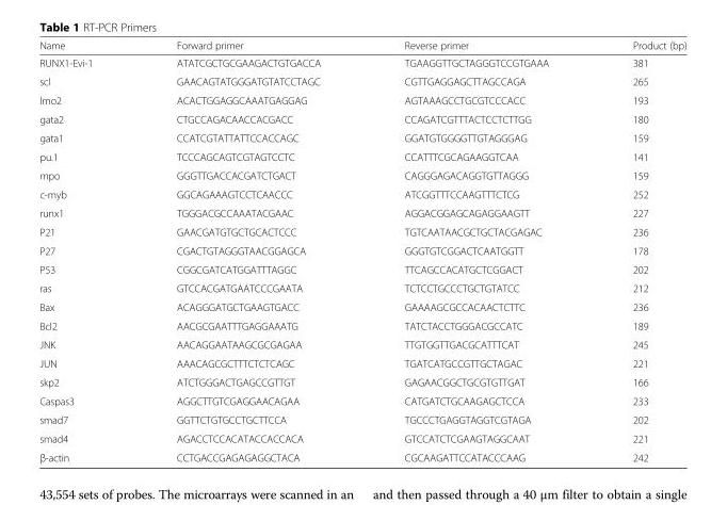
<table><thead><tr><td>Name</td><td>Forward primer</td><td>Reverse primer</td><td>Product (bp)</td></tr></thead><tbody><tr><td>RUNX1-Evi-1</td><td>ATATCGCTGCGAAGACTGTGACCA</td><td>TGAAGGTTGCTAGGGTCCGTGAAA</td><td>381</td></tr><tr><td>scl</td><td>GAACAGTATGGGATGTATCCTAGC</td><td>CGTTGAGGAGCTTAGCCAGA</td><td>265</td></tr><tr><td>lmo2</td><td>ACACTGGAGGCAAATGAGGAG</td><td>AGTAAAGCCTGCGTCCCACC</td><td>193</td></tr><tr><td>gata2</td><td>CTGCCAGACAACCACGACC</td><td>CCAGATCGTTTACTCCTCTTGG</td><td>180</td></tr><tr><td>gata1</td><td>CCATCGTATTATTCCACCAGC</td><td>GGATGTGGGGTTGTAGGGAG</td><td>159</td></tr><tr><td>pu.1</td><td>TCCCAGCAGTCGTAGTCCTC</td><td>CCATTTCGCAGAAGGTCAA</td><td>141</td></tr><tr><td>mpo</td><td>GGGTTGACCACGATCTGACT</td><td>CAGGGAGACAGGTGTTAGGG</td><td>159</td></tr><tr><td>c-myb</td><td>GGCAGAAAGTCCTCAACCC</td><td>ATCGGTTTCCAAGTTTCTCG</td><td>252</td></tr><tr><td>runx1</td><td>TGGGACGCCAAATACGAAC</td><td>AGGACGGAGCAGAGGAAGTT</td><td>227</td></tr><tr><td>P21</td><td>GAACGATGTGCTGCACTCCC</td><td>TGTCAATAACGCTGCTACGAGAC</td><td>236</td></tr><tr><td>P27</td><td>CGACTGTAGGGTAACGGAGCA</td><td>GGGTGTCGGACTCAATGGTT</td><td>178</td></tr><tr><td>P53</td><td>CGGCGATCATGGATTTAGGC</td><td>TTCAGCCACATGCTCGGACT</td><td>202</td></tr><tr><td>ras</td><td>GTCCACGATGAATCCCGAATA</td><td>TCTCCTGCCCTGCTGTATCC</td><td>212</td></tr><tr><td>Bax</td><td>ACAGGGATGCTGAAGTGACC</td><td>GAAAAGCGCCACAACTCTTC</td><td>236</td></tr><tr><td>Bcl2</td><td>AACGCGAATTTGAGGAAATG</td><td>TATCTACCTGGGACGCCATC</td><td>189</td></tr><tr><td>JNK</td><td>AACAGGAATAAGCGCGAGAA</td><td>TTGTGGTTGACGCATTTCAT</td><td>245</td></tr><tr><td>JUN</td><td>AAACAGCGCTTTCTCTCAGC</td><td>TGATCATGCCGTTGCTAGAC</td><td>221</td></tr><tr><td>skp2</td><td>ATCTGGGACTGAGCCGTTGT</td><td>GAGAACGGCTGCGTGTTGAT</td><td>166</td></tr><tr><td>Caspas3</td><td>AGGCTTGTCGAGGAACAGAA</td><td>CATGATCTGCAAGAGCTCCA</td><td>233</td></tr><tr><td>smad7</td><td>GGTTCTGTGCCTGCTTCCA</td><td>TGCCCTGAGGTAGGTCGTAGA</td><td>202</td></tr><tr><td>smad4</td><td>AGACCTCCACATACCACCACA</td><td>GTCCATCTCGAAGTAGGCAAT</td><td>221</td></tr><tr><td>β-actin</td><td>CCTGACCGAGAGAGGCTACA</td><td>CGCAAGATTCCATACCCAAG</td><td>242</td></tr></tbody></table>